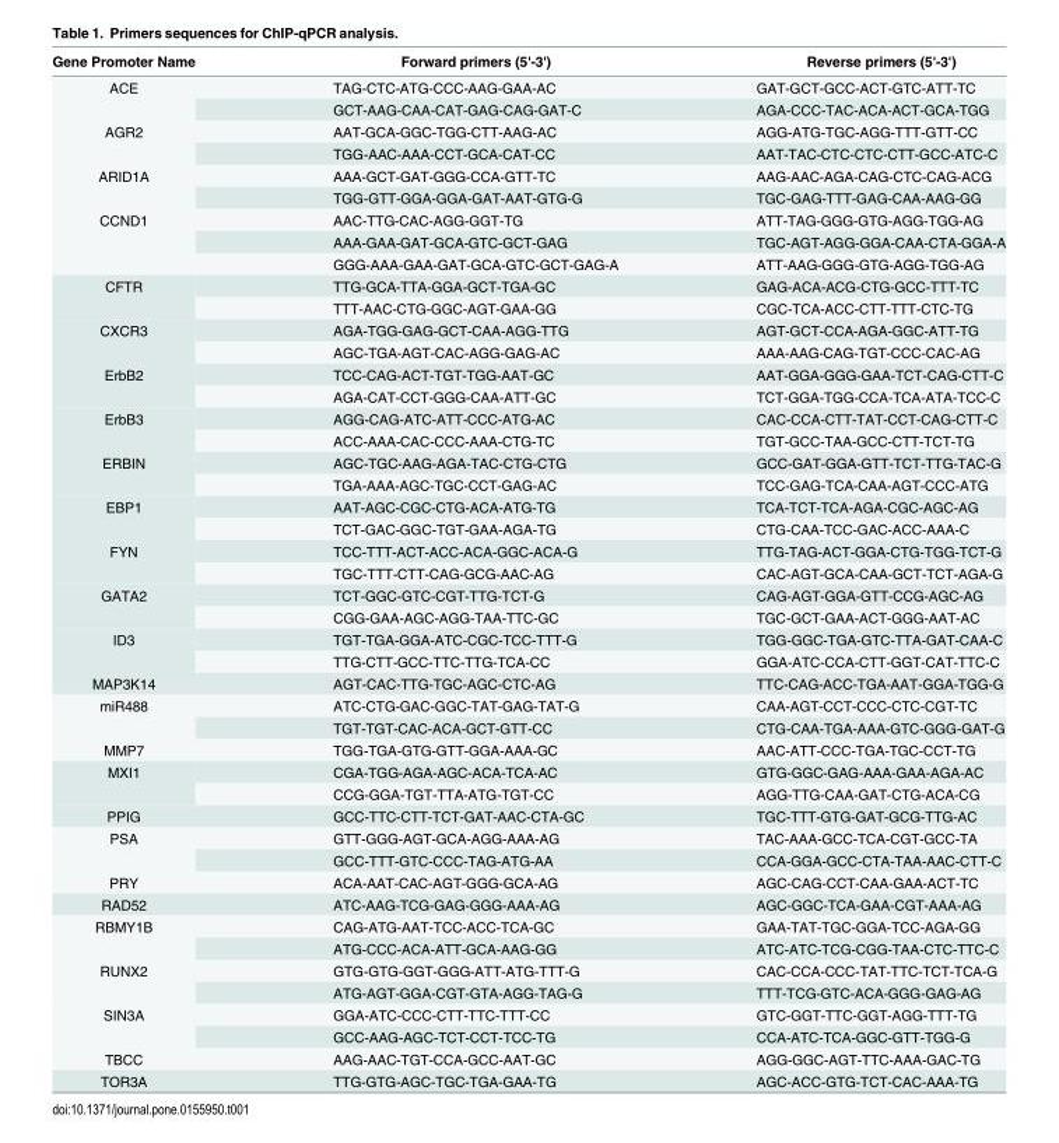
<table><thead><tr><td>Gene Promoter Name</td><td>Forward primers (5&#x27;-3&#x27;)</td><td>Reverse primers (5&#x27;-3&#x27;)</td></tr></thead><tbody><tr><td rowspan="2">ACE</td><td>TAG-CTC-ATG-CCC-AAG-GAA-AC</td><td>GAT-GCT-GCC-ACT-GTC-ATT-TC</td></tr><tr><td>GCT-AAG-CAA-CAT-GAG-CAG-GAT-C</td><td>AGA-CCC-TAC-ACA-ACT-GCA-TGG</td></tr><tr><td rowspan="2">AGR2</td><td>AAT-GCA-GGC-TGG-CTT-AAG-AC</td><td>AGG-ATG-TGC-AGG-TTT-GTT-CC</td></tr><tr><td>TGG-AAC-AAA-CCT-GCA-CAT-CC</td><td>AAT-TAC-CTC-CTC-CTT-GCC-ATC-C</td></tr><tr><td rowspan="2">ARID1A</td><td>AAA-GCT-GAT-GGG-CCA-GTT-TC</td><td>AAG-AAC-AGA-CAG-CTC-CAG-ACG</td></tr><tr><td>TGG-GTT-GGA-GGA-GAT-AAT-GTG-G</td><td>TGC-GAG-TTT-GAG-CAA-AAG-GG</td></tr><tr><td rowspan="3">CCND1</td><td>AAC-TTG-CAC-AGG-GGT-TG</td><td>ATT-TAG-GGG-GTG-AGG-TGG-AG</td></tr><tr><td>AAA-GAA-GAT-GCA-GTC-GCT-GAG</td><td>TGC-AGT-AGG-GGA-CAA-CTA-GGA-A</td></tr><tr><td>GGG-AAA-GAA-GAT-GCA-GTC-GCT-GAG-A</td><td>ATT-AAG-GGG-GTG-AGG-TGG-AG</td></tr><tr><td rowspan="2">CFTR</td><td>TTG-GCA-TTA-GGA-GCT-TGA-GC</td><td>GAG-ACA-ACG-CTG-GCC-TTT-TC</td></tr><tr><td>TTT-AAC-CTG-GGC-AGT-GAA-GG</td><td>CGC-TCA-ACC-CTT-TTT-CTC-TG</td></tr><tr><td rowspan="2">CXCR3</td><td>AGA-TGG-GAG-GCT-CAA-AGG-TTG</td><td>AGT-GCT-CCA-AGA-GGC-ATT-TG</td></tr><tr><td>AGC-TGA-AGT-CAC-AGG-GAG-AC</td><td>AAA-AAG-CAG-TGT-CCC-CAC-AG</td></tr><tr><td rowspan="2">ErbB2</td><td>TCC-CAG-ACT-TGT-TGG-AAT-GC</td><td>AAT-GGA-GGG-GAA-TCT-CAG-CTT-C</td></tr><tr><td>AGA-CAT-CCT-GGG-CAA-ATT-GC</td><td>TCT-GGA-TGG-CCA-TCA-ATA-TCC-C</td></tr><tr><td rowspan="2">ErbB3</td><td>AGG-CAG-ATC-ATT-CCC-ATG-AC</td><td>CAC-CCA-CTT-TAT-CCT-CAG-CTT-C</td></tr><tr><td>ACC-AAA-CAC-CCC-AAA-CTG-TC</td><td>TGT-GCC-TAA-GCC-CTT-TCT-TG</td></tr><tr><td rowspan="2">ERBIN</td><td>AGC-TGC-AAG-AGA-TAC-CTG-CTG</td><td>GCC-GAT-GGA-GTT-TCT-TTG-TAC-G</td></tr><tr><td>TGA-AAA-AGC-TGC-CCT-GAG-AC</td><td>TCC-GAG-TCA-CAA-AGT-CCC-ATG</td></tr><tr><td rowspan="2">EBP1</td><td>AAT-AGC-CGC-CTG-ACA-ATG-TG</td><td>TCA-TCT-TCA-AGA-CGC-AGC-AG</td></tr><tr><td>TCT-GAC-GGC-TGT-GAA-AGA-TG</td><td>CTG-CAA-TCC-GAC-ACC-AAA-C</td></tr><tr><td rowspan="2">FYN</td><td>TCC-TTT-ACT-ACC-ACA-GGC-ACA-G</td><td>TTG-TAG-ACT-GGA-CTG-TGG-TCT-G</td></tr><tr><td>TGC-TTT-CTT-CAG-GCG-AAC-AG</td><td>CAC-AGT-GCA-CAA-GCT-TCT-AGA-G</td></tr><tr><td rowspan="2">GATA2</td><td>TCT-GGC-GTC-CGT-TTG-TCT-G</td><td>CAG-AGT-GGA-GTT-CCG-AGC-AG</td></tr><tr><td>CGG-GAA-AGC-AGG-TAA-TTC-GC</td><td>TGC-GCT-GAA-ACT-GGG-AAT-AC</td></tr><tr><td rowspan="2">ID3</td><td>TGT-TGA-GGA-ATC-CGC-TCC-TTT-G</td><td>TGG-GGC-TGA-GTC-TTA-GAT-CAA-C</td></tr><tr><td>TTG-CTT-GCC-TTC-TTG-TCA-CC</td><td>GGA-ATC-CCA-CTT-GGT-CAT-TTC-C</td></tr><tr><td>MAP3K14</td><td>AGT-CAC-TTG-TGC-AGC-CTC-AG</td><td>TTC-CAG-ACC-TGA-AAT-GGA-TGG-G</td></tr><tr><td rowspan="2">miR488</td><td>ATC-CTG-GAC-GGC-TAT-GAG-TAT-G</td><td>CAA-AGT-CCT-CCC-CTC-CGT-TC</td></tr><tr><td>TGT-TGT-CAC-ACA-GCT-GTT-CC</td><td>CTG-CAA-TGA-AAA-GTC-GGG-GAT-G</td></tr><tr><td>MMP7</td><td>TGG-TGA-GTG-GTT-GGA-AAA-GC</td><td>AAC-ATT-CCC-TGA-TGC-CCT-TG</td></tr><tr><td rowspan="2">MXI1</td><td>CGA-TGG-AGA-AGC-ACA-TCA-AC</td><td>GTG-GGC-GAG-AAA-GAA-AGA-AC</td></tr><tr><td>CCG-GGA-TGT-TTA-ATG-TGT-CC</td><td>AGG-TTG-CAA-GAT-CTG-ACA-CG</td></tr><tr><td>PPIG</td><td>GCC-TTC-CTT-TCT-GAT-AAC-CTA-GC</td><td>TGC-TTT-GTG-GAT-GCG-TTG-AC</td></tr><tr><td rowspan="2">PSA</td><td>GTT-GGG-AGT-GCA-AGG-AAA-AG</td><td>TAC-AAA-GCC-TCA-CGT-GCC-TA</td></tr><tr><td>GCC-TTT-GTC-CCC-TAG-ATG-AA</td><td>CCA-GGA-GCC-CTA-TAA-AAC-CTT-C</td></tr><tr><td>PRY</td><td>ACA-AAT-CAC-AGT-GGG-GCA-AG</td><td>AGC-CAG-CCT-CAA-GAA-ACT-TC</td></tr><tr><td>RAD52</td><td>ATC-AAG-TCG-GAG-GGG-AAA-AG</td><td>AGC-GGC-TCA-GAA-CGT-AAA-AG</td></tr><tr><td rowspan="2">RBMY1B</td><td>CAG-ATG-AAT-TCC-ACC-TCA-GC</td><td>GAA-TAT-TGC-GGA-TCC-AGA-GG</td></tr><tr><td>ATG-CCC-ACA-ATT-GCA-AAG-GG</td><td>ATC-ATC-TCG-CGG-TAA-CTC-TTC-C</td></tr><tr><td rowspan="2">RUNX2</td><td>GTG-GTG-GGT-GGG-ATT-ATG-TTT-G</td><td>CAC-CCA-CCC-TAT-TTC-TCT-TCA-G</td></tr><tr><td>ATG-AGT-GGA-CGT-GTA-AGG-TAG-G</td><td>TTT-TCG-GTC-ACA-GGG-GAG-AG</td></tr><tr><td rowspan="2">SIN3A</td><td>GGA-ATC-CCC-CTT-TTC-TTT-CC</td><td>GTC-GGT-TTC-GGT-AGG-TTT-TG</td></tr><tr><td>GCC-AAG-AGC-TCT-CCT-TCC-TG</td><td>CCA-ATC-TCA-GGC-GTT-TGG-G</td></tr><tr><td>TBCC</td><td>AAG-AAC-TGT-CCA-GCC-AAT-GC</td><td>AGG-GGC-AGT-TTC-AAA-GAC-TG</td></tr><tr><td>TOR3A</td><td>TTG-GTG-AGC-TGC-TGA-GAA-TG</td><td>AGC-ACC-GTG-TCT-CAC-AAA-TG</td></tr></tbody></table>